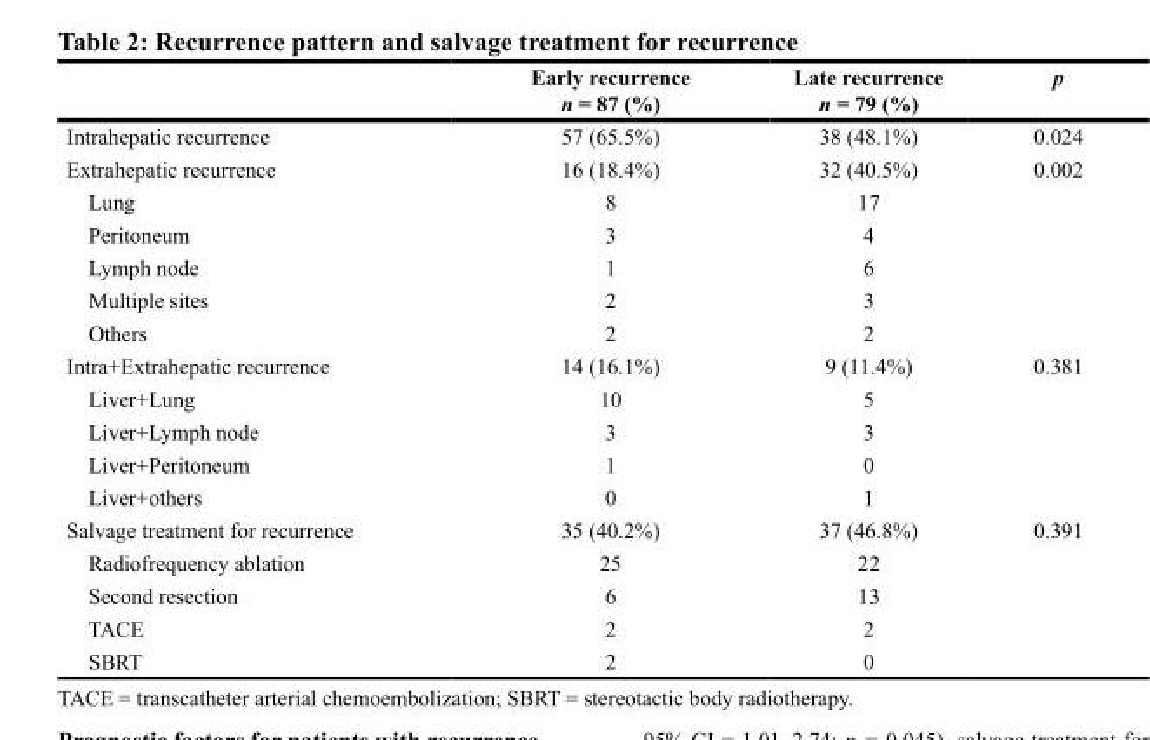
<table><thead><tr><td></td><td>Early recurrence n = 87 (%)</td><td>Late recurrence n = 79 (%)</td><td>p</td></tr></thead><tbody><tr><td>Intrahepatic recurrence</td><td>57 (65.5%)</td><td>38 (48.1%)</td><td>0.024</td></tr><tr><td>Extrahepatic recurrence</td><td>16 (18.4%)</td><td>32 (40.5%)</td><td>0.002</td></tr><tr><td>Lung</td><td>8</td><td>17</td><td></td></tr><tr><td>Peritoneum</td><td>3</td><td>4</td><td></td></tr><tr><td>Lymph node</td><td>1</td><td>6</td><td></td></tr><tr><td>Multiple sites</td><td>2</td><td>3</td><td></td></tr><tr><td>Others</td><td>2</td><td>2</td><td></td></tr><tr><td>Intra+Extrahepatic recurrence</td><td>14 (16.1%)</td><td>9 (11.4%)</td><td>0.381</td></tr><tr><td>Liver+Lung</td><td>10</td><td>5</td><td></td></tr><tr><td>Liver+Lymph node</td><td>3</td><td>3</td><td></td></tr><tr><td>Liver+Peritoneum</td><td>1</td><td>0</td><td></td></tr><tr><td>Liver+others</td><td>0</td><td>1</td><td></td></tr><tr><td>Salvage treatment for recurrence</td><td>35 (40.2%)</td><td>37 (46.8%)</td><td>0.391</td></tr><tr><td>Radiofrequency ablation</td><td>25</td><td>22</td><td></td></tr><tr><td>Second resection</td><td>6</td><td>13</td><td></td></tr><tr><td>TACE</td><td>2</td><td>2</td><td></td></tr><tr><td>SBRT</td><td>2</td><td>0</td><td></td></tr></tbody></table>